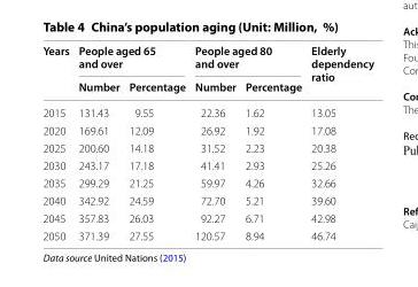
<table><thead><tr><td rowspan="2">Years</td><td colspan="2">People aged 65 and over</td><td colspan="2">People aged 80 and over</td><td rowspan="2">Elderly dependency ratio</td></tr><tr><td>Number</td><td>Percentage</td><td>Number</td><td>Percentage</td></tr></thead><tbody><tr><td>2015</td><td>131.43</td><td>9.55</td><td>22.36</td><td>1.62</td><td>13.05</td></tr><tr><td>2020</td><td>169.61</td><td>12.09</td><td>26.92</td><td>1.92</td><td>17.08</td></tr><tr><td>2025</td><td>200.60</td><td>14.18</td><td>31.52</td><td>2.23</td><td>20.38</td></tr><tr><td>2030</td><td>243.17</td><td>17.18</td><td>41.41</td><td>2.93</td><td>25.26</td></tr><tr><td>2035</td><td>299.29</td><td>21.25</td><td>59.97</td><td>4.26</td><td>32.66</td></tr><tr><td>2040</td><td>342.92</td><td>24.59</td><td>72.70</td><td>5.21</td><td>39.60</td></tr><tr><td>2045</td><td>357.83</td><td>26.03</td><td>92.27</td><td>6.71</td><td>42.98</td></tr><tr><td>2050</td><td>371.39</td><td>27.55</td><td>120.57</td><td>8.94</td><td>46.74</td></tr></tbody></table>